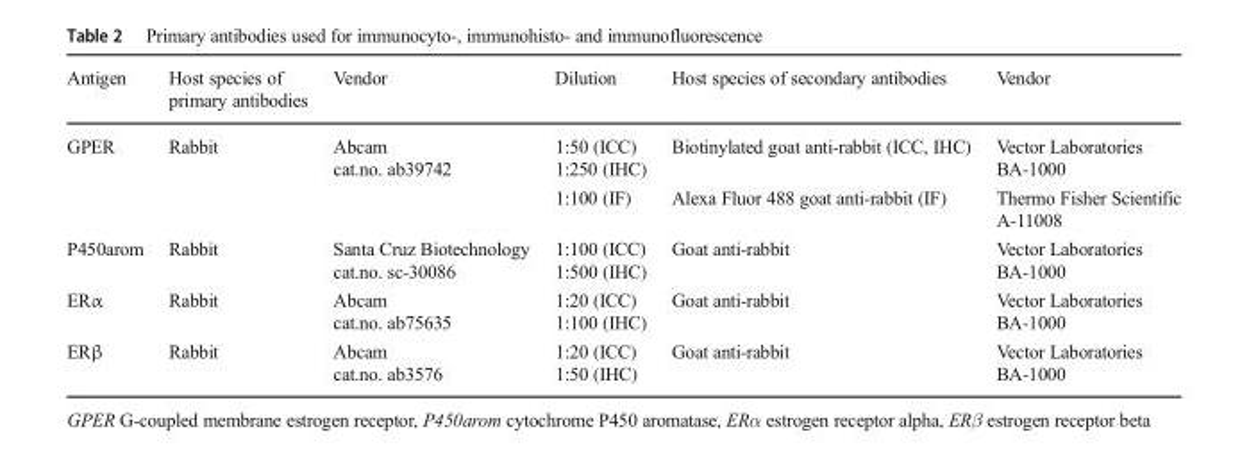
<table><thead><tr><td>Antigen</td><td>Host species of primary antibodies</td><td>Vendor</td><td>Dilution</td><td>Host species of secondary antibodies</td><td>Vendor</td></tr></thead><tbody><tr><td rowspan="2">GPER</td><td rowspan="2">Rabbit</td><td rowspan="2">Abcam cat.no. ab39742</td><td>1:50 (ICC) 1:250 (IHC)</td><td>Biotinylated goat anti-rabbit (ICC, IHC)</td><td>Vector Laboratories BA-1000</td></tr><tr><td>1:100 (IF)</td><td>Alexa Fluor 488 goat anti-rabbit (IF)</td><td>Thermo Fisher Scientific A-11008</td></tr><tr><td>P450arom</td><td>Rabbit</td><td>Santa Cruz Biotechnology cat.no. sc-30086</td><td>1:100 (ICC) 1:500 (IHC)</td><td>Goat anti-rabbit</td><td>Vector Laboratories BA-1000</td></tr><tr><td>ERα</td><td>Rabbit</td><td>Abcam cat.no. ab75635</td><td>1:20 (ICC) 1:100 (IHC)</td><td>Goat anti-rabbit</td><td>Vector Laboratories BA-1000</td></tr><tr><td>ERβ</td><td>Rabbit</td><td>Abcam cat.no. ab3576</td><td>1:20 (ICC) 1:50 (IHC)</td><td>Goat anti-rabbit</td><td>Vector Laboratories BA-1000</td></tr></tbody></table>